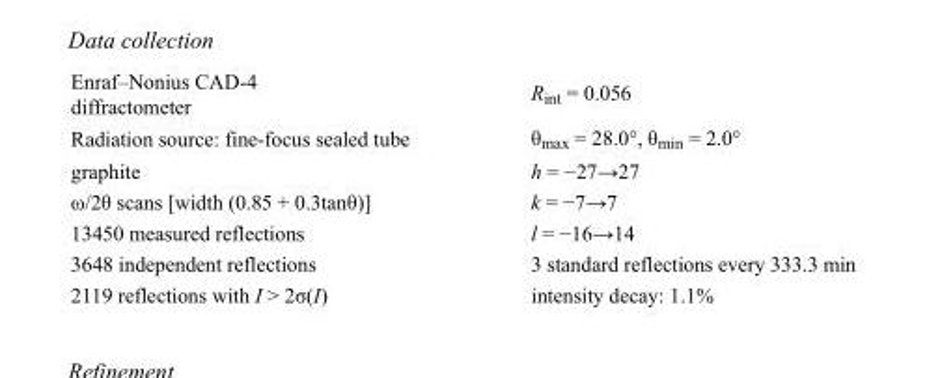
<table><tbody><tr><td>Enraf–Nonius CAD-4 diffractometer</td><td>R<sub>int</sub> = 0.056</td></tr><tr><td>Radiation source: fine-focus sealed tube</td><td>θ<sub>max</sub> = 28.0°, θ<sub>min</sub> = 2.0°</td></tr><tr><td>graphite</td><td>h = −27→27</td></tr><tr><td>ω/2θ scans [width (0.85 + 0.3tanθ)]</td><td>k = −7→7</td></tr><tr><td>13450 measured reflections</td><td>l = −16→14</td></tr><tr><td>3648 independent reflections</td><td>3 standard reflections every 333.3 min</td></tr><tr><td>2119 reflections with I &gt; 2σ(I)</td><td>intensity decay: 1.1%</td></tr></tbody></table>